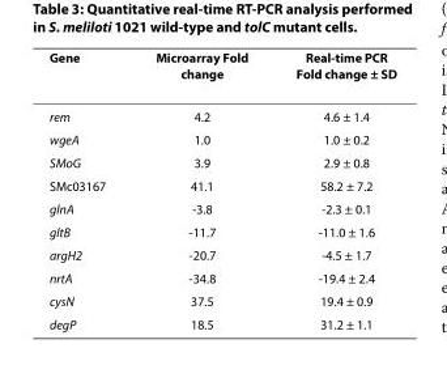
<table><thead><tr><td>Gene</td><td>Microarray Fold change</td><td>Real-time PCR Fold change ± SD</td></tr></thead><tbody><tr><td>rem</td><td>4.2</td><td>4.6 ± 1.4</td></tr><tr><td>wgeA</td><td>1.0</td><td>1.0 ± 0.2</td></tr><tr><td>SMoG</td><td>3.9</td><td>2.9 ± 0.8</td></tr><tr><td>SMc03167</td><td>41.1</td><td>58.2 ± 7.2</td></tr><tr><td>glnA</td><td>-3.8</td><td>-2.3 ± 0.1</td></tr><tr><td>gltB</td><td>-11.7</td><td>-11.0 ± 1.6</td></tr><tr><td>argH2</td><td>-20.7</td><td>-4.5 ± 1.7</td></tr><tr><td>nrtA</td><td>-34.8</td><td>-19.4 ± 2.4</td></tr><tr><td>cysN</td><td>37.5</td><td>19.4 ± 0.9</td></tr><tr><td>degP</td><td>18.5</td><td>31.2 ± 1.1</td></tr></tbody></table>